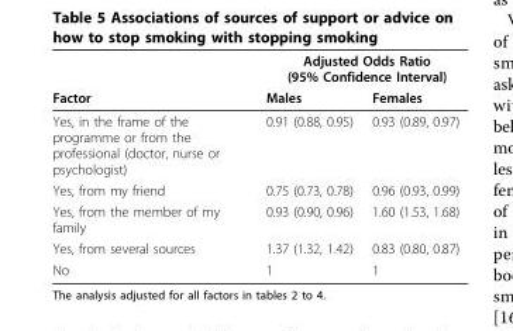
<table><thead><tr><td rowspan="2">Factor</td><td colspan="2">Adjusted Odds Ratio (95% Confidence Interval)</td></tr><tr><td>Males</td><td>Females</td></tr></thead><tbody><tr><td>Yes, in the frame of the programme or from the professional (doctor, nurse or psychologist)</td><td>0.91 (0.88, 0.95)</td><td>0.93 (0.89, 0.97)</td></tr><tr><td>Yes, from my friend</td><td>0.75 (0.73, 0.78)</td><td>0.96 (0.93, 0.99)</td></tr><tr><td>Yes, from the member of my family</td><td>0.93 (0.90, 0.96)</td><td>1.60 (1.53, 1.68)</td></tr><tr><td>Yes, from several sources</td><td>1.37 (1.32, 1.42)</td><td>0.83 (0.80, 0.87)</td></tr><tr><td>No</td><td>1</td><td>1</td></tr></tbody></table>